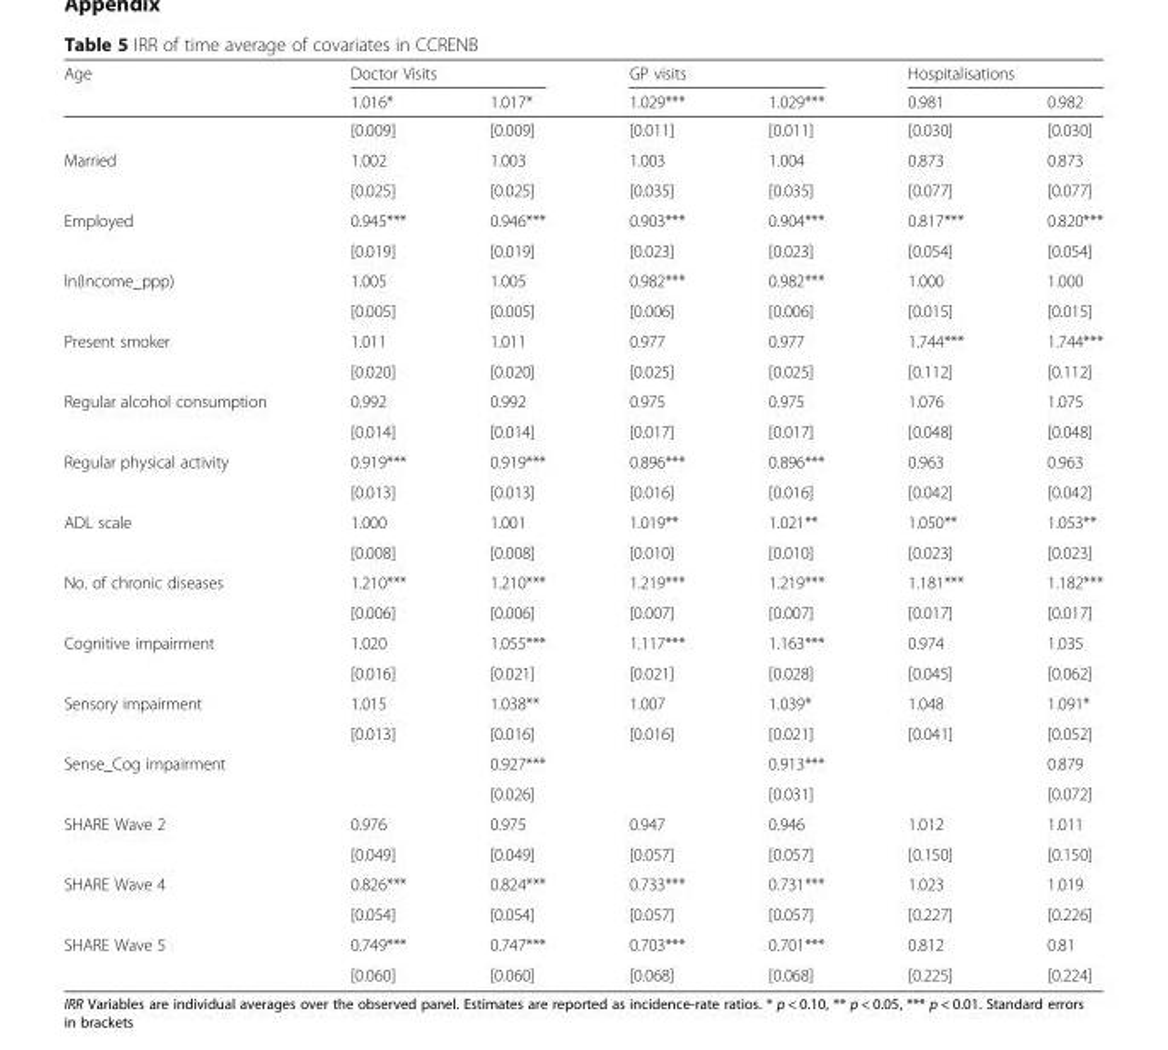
<table><thead><tr><td rowspan="2">Age</td><td colspan="2">Doctor Visits</td><td colspan="2">GP visits</td><td colspan="2">Hospitalisations</td></tr><tr><td>1.016*</td><td>1.017*</td><td>1.029***</td><td>1.029***</td><td>0.981</td><td>0.982</td></tr></thead><tbody><tr><td></td><td>[0.009]</td><td>[0.009]</td><td>[0.011]</td><td>[0.011]</td><td>[0.030]</td><td>[0.030]</td></tr><tr><td rowspan="2">Married</td><td>1.002</td><td>1.003</td><td>1.003</td><td>1.004</td><td>0.873</td><td>0.873</td></tr><tr><td>[0.025]</td><td>[0.025]</td><td>[0.035]</td><td>[0.035]</td><td>[0.077]</td><td>[0.077]</td></tr><tr><td rowspan="2">Employed</td><td>0.945***</td><td>0.946***</td><td>0.903***</td><td>0.904***</td><td>0.817***</td><td>0.820***</td></tr><tr><td>[0.019]</td><td>[0.019]</td><td>[0.023]</td><td>[0.023]</td><td>[0.054]</td><td>[0.054]</td></tr><tr><td rowspan="2">ln(Income_ppp)</td><td>1.005</td><td>1.005</td><td>0.982***</td><td>0.982***</td><td>1.000</td><td>1.000</td></tr><tr><td>[0.005]</td><td>[0.005]</td><td>[0.006]</td><td>[0.006]</td><td>[0.015]</td><td>[0.015]</td></tr><tr><td rowspan="2">Present smoker</td><td>1.011</td><td>1.011</td><td>0.977</td><td>0.977</td><td>1.744***</td><td>1.744***</td></tr><tr><td>[0.020]</td><td>[0.020]</td><td>[0.025]</td><td>[0.025]</td><td>[0.112]</td><td>[0.112]</td></tr><tr><td rowspan="2">Regular alcohol consumption</td><td>0.992</td><td>0.992</td><td>0.975</td><td>0.975</td><td>1.076</td><td>1.075</td></tr><tr><td>[0.014]</td><td>[0.014]</td><td>[0.017]</td><td>[0.017]</td><td>[0.048]</td><td>[0.048]</td></tr><tr><td rowspan="2">Regular physical activity</td><td>0.919***</td><td>0.919***</td><td>0.896***</td><td>0.896***</td><td>0.963</td><td>0.963</td></tr><tr><td>[0.013]</td><td>[0.013]</td><td>[0.016]</td><td>[0.016]</td><td>[0.042]</td><td>[0.042]</td></tr><tr><td rowspan="2">ADL scale</td><td>1.000</td><td>1.001</td><td>1.019**</td><td>1.021**</td><td>1.050**</td><td>1.053**</td></tr><tr><td>[0.008]</td><td>[0.008]</td><td>[0.010]</td><td>[0.010]</td><td>[0.023]</td><td>[0.023]</td></tr><tr><td rowspan="2">No. of chronic diseases</td><td>1.210***</td><td>1.210***</td><td>1.219***</td><td>1.219***</td><td>1.181***</td><td>1.182***</td></tr><tr><td>[0.006]</td><td>[0.006]</td><td>[0.007]</td><td>[0.007]</td><td>[0.017]</td><td>[0.017]</td></tr><tr><td rowspan="2">Cognitive impairment</td><td>1.020</td><td>1.055***</td><td>1.117***</td><td>1.163***</td><td>0.974</td><td>1.035</td></tr><tr><td>[0.016]</td><td>[0.021]</td><td>[0.021]</td><td>[0.028]</td><td>[0.045]</td><td>[0.062]</td></tr><tr><td rowspan="2">Sensory impairment</td><td>1.015</td><td>1.038**</td><td>1.007</td><td>1.039*</td><td>1.048</td><td>1.091*</td></tr><tr><td>[0.013]</td><td>[0.016]</td><td>[0.016]</td><td>[0.021]</td><td>[0.041]</td><td>[0.052]</td></tr><tr><td rowspan="2">Sense_Cog impairment</td><td></td><td>0.927***</td><td></td><td>0.913***</td><td></td><td>0.879</td></tr><tr><td></td><td>[0.026]</td><td></td><td>[0.031]</td><td></td><td>[0.072]</td></tr><tr><td rowspan="2">SHARE Wave 2</td><td>0.976</td><td>0.975</td><td>0.947</td><td>0.946</td><td>1.012</td><td>1.011</td></tr><tr><td>[0.049]</td><td>[0.049]</td><td>[0.057]</td><td>[0.057]</td><td>[0.150]</td><td>[0.150]</td></tr><tr><td rowspan="2">SHARE Wave 4</td><td>0.826***</td><td>0.824***</td><td>0.733***</td><td>0.731***</td><td>1.023</td><td>1.019</td></tr><tr><td>[0.054]</td><td>[0.054]</td><td>[0.057]</td><td>[0.057]</td><td>[0.227]</td><td>[0.226]</td></tr><tr><td rowspan="2">SHARE Wave 5</td><td>0.749***</td><td>0.747***</td><td>0.703***</td><td>0.701***</td><td>0.812</td><td>0.81</td></tr><tr><td>[0.060]</td><td>[0.060]</td><td>[0.068]</td><td>[0.068]</td><td>[0.225]</td><td>[0.224]</td></tr></tbody></table>